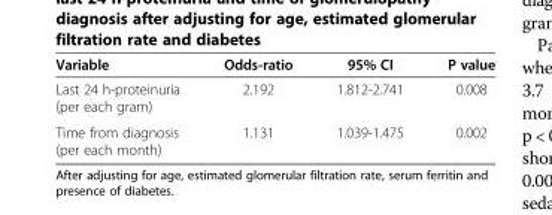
<table><thead><tr><td>Variable</td><td>Odds-ratio</td><td>95% CI</td><td>P value</td></tr></thead><tbody><tr><td>Last 24 h-proteinuria (per each gram)</td><td>2.192</td><td>1.812-2.741</td><td>0.008</td></tr><tr><td>Time from diagnosis (per each month)</td><td>1.131</td><td>1.039-1.475</td><td>0.002</td></tr></tbody></table>